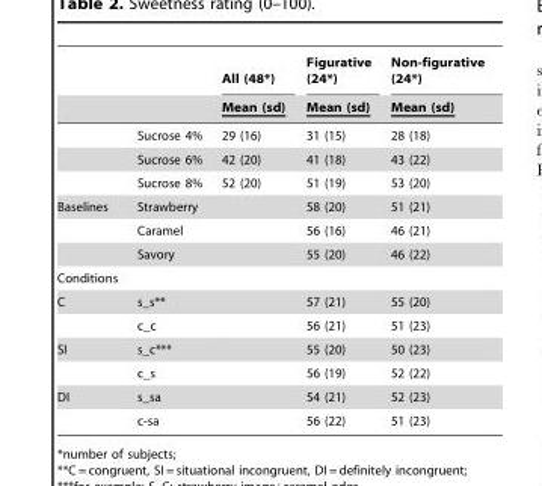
<table><thead><tr><td rowspan="2"></td><td rowspan="2"></td><td rowspan="2">All (48*) Mean (sd)</td><td rowspan="2">Figurative (24*) Mean (sd)</td><td rowspan="2">Non-figurative (24*) Mean (sd)</td></tr><tr></tr></thead><tbody><tr><td></td><td>Sucrose 4%</td><td>29 (16)</td><td>31 (15)</td><td>28 (18)</td></tr><tr><td></td><td>Sucrose 6%</td><td>42 (20)</td><td>41 (18)</td><td>43 (22)</td></tr><tr><td></td><td>Sucrose 8%</td><td>52 (20)</td><td>51 (19)</td><td>53 (20)</td></tr><tr><td rowspan="3">Baselines</td><td>Strawberry</td><td></td><td>58 (20)</td><td>51 (21)</td></tr><tr><td>Caramel</td><td></td><td>56 (16)</td><td>46 (21)</td></tr><tr><td>Savory</td><td></td><td>55 (20)</td><td>46 (22)</td></tr><tr><td colspan="5">Conditions</td></tr><tr><td rowspan="2">C</td><td>s_s**</td><td></td><td>57 (21)</td><td>55 (20)</td></tr><tr><td>c_c</td><td></td><td>56 (21)</td><td>51 (23)</td></tr><tr><td rowspan="2">SI</td><td>s_c***</td><td></td><td>55 (20)</td><td>50 (23)</td></tr><tr><td>c_s</td><td></td><td>56 (19)</td><td>52 (22)</td></tr><tr><td rowspan="2">DI</td><td>s_sa</td><td></td><td>54 (21)</td><td>52 (23)</td></tr><tr><td>c-sa</td><td></td><td>56 (22)</td><td>51 (23)</td></tr></tbody></table>